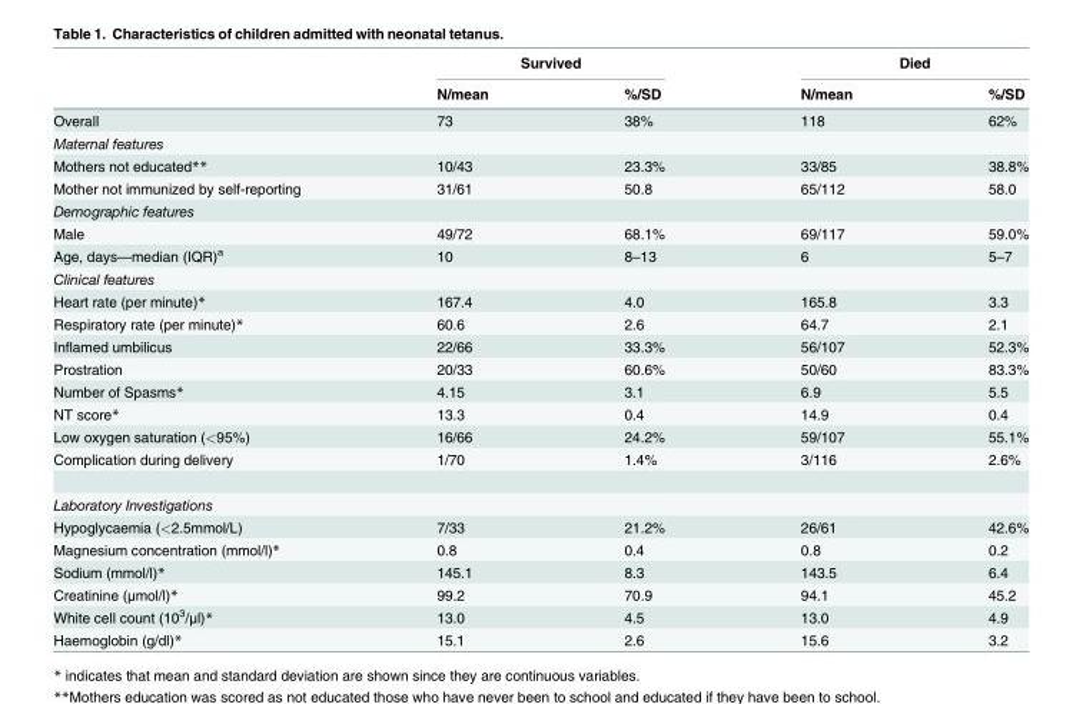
<table><thead><tr><td rowspan="2"></td><td colspan="2">Survived</td><td colspan="2">Died</td></tr><tr><td>N/mean</td><td>%/SD</td><td>N/mean</td><td>%/SD</td></tr></thead><tbody><tr><td>Overall</td><td>73</td><td>38%</td><td>118</td><td>62%</td></tr><tr><td colspan="5">Maternal features</td></tr><tr><td>Mothers not educated**</td><td>10/43</td><td>23.3%</td><td>33/85</td><td>38.8%</td></tr><tr><td>Mother not immunized by self-reporting</td><td>31/61</td><td>50.8</td><td>65/112</td><td>58.0</td></tr><tr><td colspan="5">Demographic features</td></tr><tr><td>Male</td><td>49/72</td><td>68.1%</td><td>69/117</td><td>59.0%</td></tr><tr><td>Age, days—median (IQR)<sup>a</sup></td><td>10</td><td>8–13</td><td>6</td><td>5–7</td></tr><tr><td colspan="5">Clinical features</td></tr><tr><td>Heart rate (per minute)*</td><td>167.4</td><td>4.0</td><td>165.8</td><td>3.3</td></tr><tr><td>Respiratory rate (per minute)*</td><td>60.6</td><td>2.6</td><td>64.7</td><td>2.1</td></tr><tr><td>Inflamed umbilicus</td><td>22/66</td><td>33.3%</td><td>56/107</td><td>52.3%</td></tr><tr><td>Prostration</td><td>20/33</td><td>60.6%</td><td>50/60</td><td>83.3%</td></tr><tr><td>Number of Spasms*</td><td>4.15</td><td>3.1</td><td>6.9</td><td>5.5</td></tr><tr><td>NT score*</td><td>13.3</td><td>0.4</td><td>14.9</td><td>0.4</td></tr><tr><td>Low oxygen saturation (&lt;95%)</td><td>16/66</td><td>24.2%</td><td>59/107</td><td>55.1%</td></tr><tr><td>Complication during delivery</td><td>1/70</td><td>1.4%</td><td>3/116</td><td>2.6%</td></tr><tr><td colspan="5">Laboratory Investigations</td></tr><tr><td>Hypoglycaemia (&lt;2.5mmol/L)</td><td>7/33</td><td>21.2%</td><td>26/61</td><td>42.6%</td></tr><tr><td>Magnesium concentration (mmol/l)*</td><td>0.8</td><td>0.4</td><td>0.8</td><td>0.2</td></tr><tr><td>Sodium (mmol/l)*</td><td>145.1</td><td>8.3</td><td>143.5</td><td>6.4</td></tr><tr><td>Creatinine (μmol/l)*</td><td>99.2</td><td>70.9</td><td>94.1</td><td>45.2</td></tr><tr><td>White cell count (10<sup>3</sup>/μl)*</td><td>13.0</td><td>4.5</td><td>13.0</td><td>4.9</td></tr><tr><td>Haemoglobin (g/dl)*</td><td>15.1</td><td>2.6</td><td>15.6</td><td>3.2</td></tr></tbody></table>